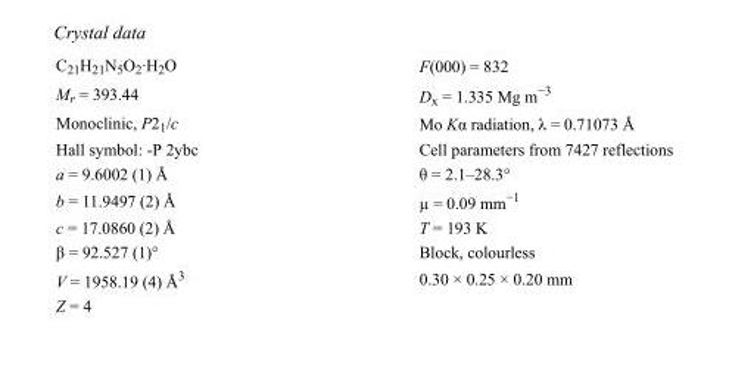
<table><tbody><tr><td>C<sub>21</sub>H<sub>21</sub>N<sub>5</sub>O<sub>2</sub>·H<sub>2</sub>O</td><td>F(000) = 832</td></tr><tr><td>M<sub>r</sub> = 393.44</td><td>D<sub>x</sub> = 1.335 Mg m<sup>−3</sup></td></tr><tr><td>Monoclinic, P2<sub>1</sub>/c</td><td>Mo Kα radiation, λ = 0.71073 Å</td></tr><tr><td>Hall symbol: -P 2ybc</td><td>Cell parameters from 7427 reflections</td></tr><tr><td>a = 9.6002 (1) Å</td><td>θ = 2.1–28.3°</td></tr><tr><td>b = 11.9497 (2) Å</td><td>µ = 0.09 mm<sup>−1</sup></td></tr><tr><td>c = 17.0860 (2) Å</td><td>T = 193 K</td></tr><tr><td>β = 92.527 (1)°</td><td>Block, colourless</td></tr><tr><td>V = 1958.19 (4) Å<sup>3</sup></td><td>0.30 × 0.25 × 0.20 mm</td></tr><tr><td>Z = 4</td><td></td></tr></tbody></table>